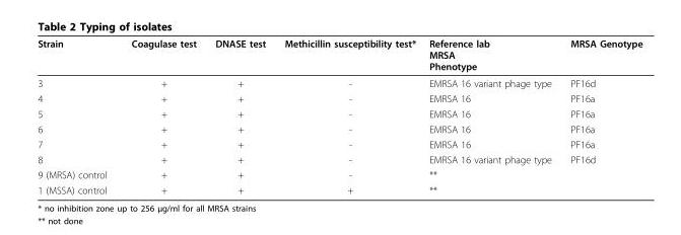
<table><thead><tr><td>Strain</td><td>Coagulase test</td><td>DNASE test</td><td>Methicillin susceptibility test*</td><td>Reference lab MRSA Phenotype</td><td>MRSA Genotype</td></tr></thead><tbody><tr><td>3</td><td>+</td><td>+</td><td>-</td><td>EMRSA 16 variant phage type</td><td>PF16d</td></tr><tr><td>4</td><td>+</td><td>+</td><td>-</td><td>EMRSA 16</td><td>PF16a</td></tr><tr><td>5</td><td>+</td><td>+</td><td>-</td><td>EMRSA 16</td><td>PF16a</td></tr><tr><td>6</td><td>+</td><td>+</td><td>-</td><td>EMRSA 16</td><td>PF16a</td></tr><tr><td>7</td><td>+</td><td>+</td><td>-</td><td>EMRSA 16</td><td>PF16a</td></tr><tr><td>8</td><td>+</td><td>+</td><td>-</td><td>EMRSA 16 variant phage type</td><td>PF16d</td></tr><tr><td>9 (MRSA) control</td><td>+</td><td>+</td><td>-</td><td>**</td><td></td></tr><tr><td>1 (MSSA) control</td><td>+</td><td>+</td><td>+</td><td>**</td><td></td></tr></tbody></table>